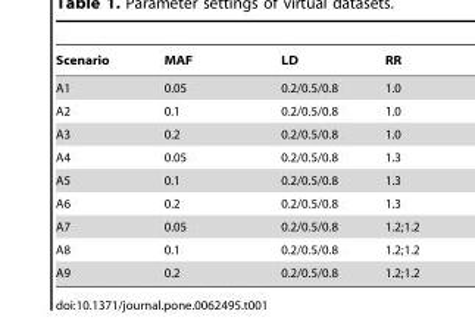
<table><thead><tr><td>Scenario</td><td>MAF</td><td>LD</td><td>RR</td></tr></thead><tbody><tr><td>A1</td><td>0.05</td><td>0.2/0.5/0.8</td><td>1.0</td></tr><tr><td>A2</td><td>0.1</td><td>0.2/0.5/0.8</td><td>1.0</td></tr><tr><td>A3</td><td>0.2</td><td>0.2/0.5/0.8</td><td>1.0</td></tr><tr><td>A4</td><td>0.05</td><td>0.2/0.5/0.8</td><td>1.3</td></tr><tr><td>A5</td><td>0.1</td><td>0.2/0.5/0.8</td><td>1.3</td></tr><tr><td>A6</td><td>0.2</td><td>0.2/0.5/0.8</td><td>1.3</td></tr><tr><td>A7</td><td>0.05</td><td>0.2/0.5/0.8</td><td>1.2;1.2</td></tr><tr><td>A8</td><td>0.1</td><td>0.2/0.5/0.8</td><td>1.2;1.2</td></tr><tr><td>A9</td><td>0.2</td><td>0.2/0.5/0.8</td><td>1.2;1.2</td></tr></tbody></table>